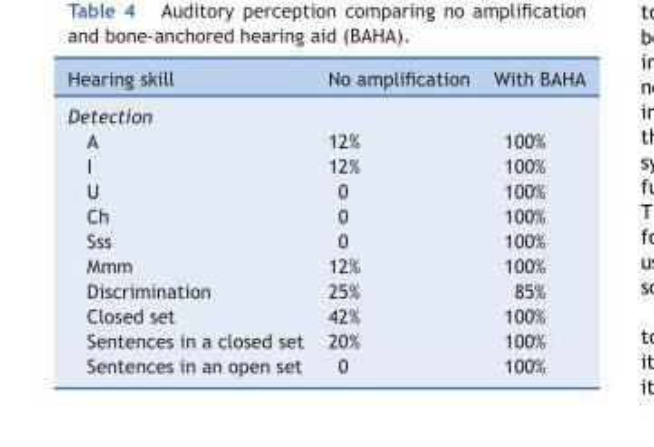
<table><thead><tr><td>Hearing skill</td><td>No amplification</td><td>With BAHA</td></tr></thead><tbody><tr><td colspan="3">Detection</td></tr><tr><td>A</td><td>12%</td><td>100%</td></tr><tr><td>I</td><td>12%</td><td>100%</td></tr><tr><td>U</td><td>0</td><td>100%</td></tr><tr><td>Ch</td><td>0</td><td>100%</td></tr><tr><td>Sss</td><td>0</td><td>100%</td></tr><tr><td>Mmm</td><td>12%</td><td>100%</td></tr><tr><td>Discrimination</td><td>25%</td><td>85%</td></tr><tr><td>Closed set</td><td>42%</td><td>100%</td></tr><tr><td>Sentences in a closed set</td><td>20%</td><td>100%</td></tr><tr><td>Sentences in an open set</td><td>0</td><td>100%</td></tr></tbody></table>